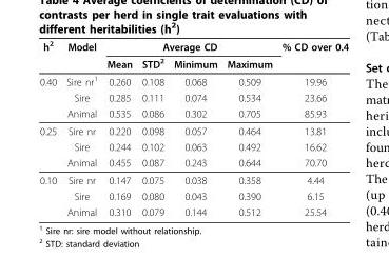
<table><thead><tr><td rowspan="2">h<sup>2</sup></td><td rowspan="2">Model</td><td colspan="4">Average CD</td><td rowspan="2">% CD over 0.4</td></tr><tr><td>Mean</td><td>STD<sup>2</sup></td><td>Minimum</td><td>Maximum</td></tr></thead><tbody><tr><td rowspan="3">0.40</td><td>Sire nr<sup>1</sup></td><td>0.260</td><td>0.108</td><td>0.068</td><td>0.509</td><td>19.96</td></tr><tr><td>Sire</td><td>0.285</td><td>0.111</td><td>0.074</td><td>0.534</td><td>23.66</td></tr><tr><td>Animal</td><td>0.535</td><td>0.086</td><td>0.302</td><td>0.705</td><td>85.93</td></tr><tr><td rowspan="3">0.25</td><td>Sire nr</td><td>0.220</td><td>0.098</td><td>0.057</td><td>0.464</td><td>13.81</td></tr><tr><td>Sire</td><td>0.244</td><td>0.102</td><td>0.063</td><td>0.492</td><td>16.62</td></tr><tr><td>Animal</td><td>0.455</td><td>0.087</td><td>0.243</td><td>0.644</td><td>70.70</td></tr><tr><td rowspan="3">0.10</td><td>Sire nr</td><td>0.147</td><td>0.075</td><td>0.038</td><td>0.358</td><td>4.44</td></tr><tr><td>Sire</td><td>0.169</td><td>0.080</td><td>0.043</td><td>0.390</td><td>6.15</td></tr><tr><td>Animal</td><td>0.310</td><td>0.079</td><td>0.144</td><td>0.512</td><td>25.54</td></tr></tbody></table>